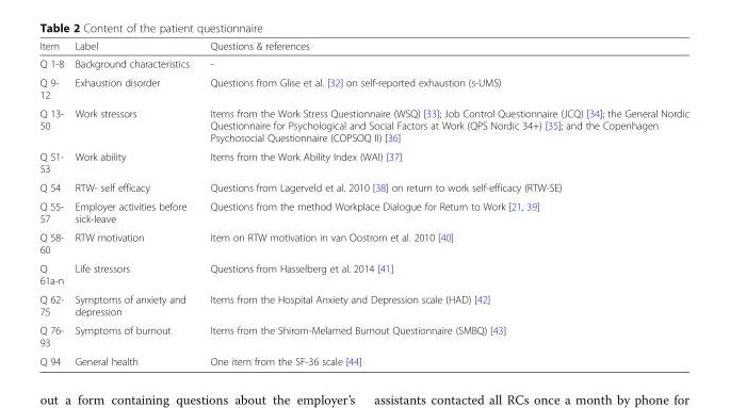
<table><thead><tr><td>Item</td><td>Label</td><td>Questions &amp; references</td></tr></thead><tbody><tr><td>Q 1-8</td><td>Background characteristics</td><td>-</td></tr><tr><td>Q 9- 12</td><td>Exhaustion disorder</td><td>Questions from Glise et al. [32] on self-reported exhaustion (s-UMS)</td></tr><tr><td>Q 13- 50</td><td>Work stressors</td><td>Items from the Work Stress Questionnaire (WSQ) [33]; Job Control Questionnaire (JCQ) [34]; the General Nordic Questionnaire for Psychological and Social Factors at Work (QPS Nordic 34+) [35]; and the Copenhagen Psychosocial Questionnaire (COPSOQ II) [36]</td></tr><tr><td>Q 51- 53</td><td>Work ability</td><td>Items from the Work Ability Index (WAI) [37]</td></tr><tr><td>Q 54</td><td>RTW- self efficacy</td><td>Questions from Lagerveld et al. 2010 [38] on return to work self-efficacy (RTW-SE)</td></tr><tr><td>Q 55- 57</td><td>Employer activities before sick-leave</td><td>Questions from the method Workplace Dialogue for Return to Work [21, 39]</td></tr><tr><td>Q 58- 60</td><td>RTW motivation</td><td>Item on RTW motivation in van Oostrom et al. 2010 [40]</td></tr><tr><td>Q 61a-n</td><td>Life stressors</td><td>Questions from Hasselberg et al. 2014 [41]</td></tr><tr><td>Q 62- 75</td><td>Symptoms of anxiety and depression</td><td>Items from the Hospital Anxiety and Depression scale (HAD) [42]</td></tr><tr><td>Q 76- 93</td><td>Symptoms of burnout</td><td>Items from the Shirom-Melamed Burnout Questionnaire (SMBQ) [43]</td></tr><tr><td>Q 94</td><td>General health</td><td>One item from the SF-36 scale [44]</td></tr></tbody></table>